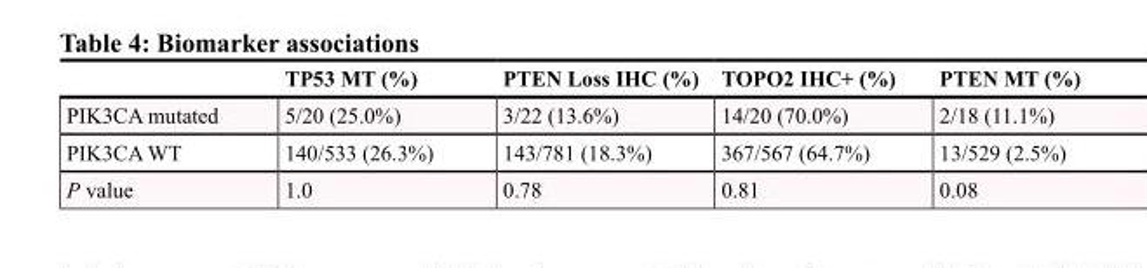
<table><thead><tr><td></td><td>TP53 MT (%)</td><td>PTEN Loss IHC (%)</td><td>TOPO2 IHC+ (%)</td><td>PTEN MT (%)</td></tr></thead><tbody><tr><td>PIK3CA mutated</td><td>5/20 (25.0%)</td><td>3/22 (13.6%)</td><td>14/20 (70.0%)</td><td>2/18 (11.1%)</td></tr><tr><td>PIK3CA WT</td><td>140/533 (26.3%)</td><td>143/781 (18.3%)</td><td>367/567 (64.7%)</td><td>13/529 (2.5%)</td></tr><tr><td>P value</td><td>1.0</td><td>0.78</td><td>0.81</td><td>0.08</td></tr></tbody></table>